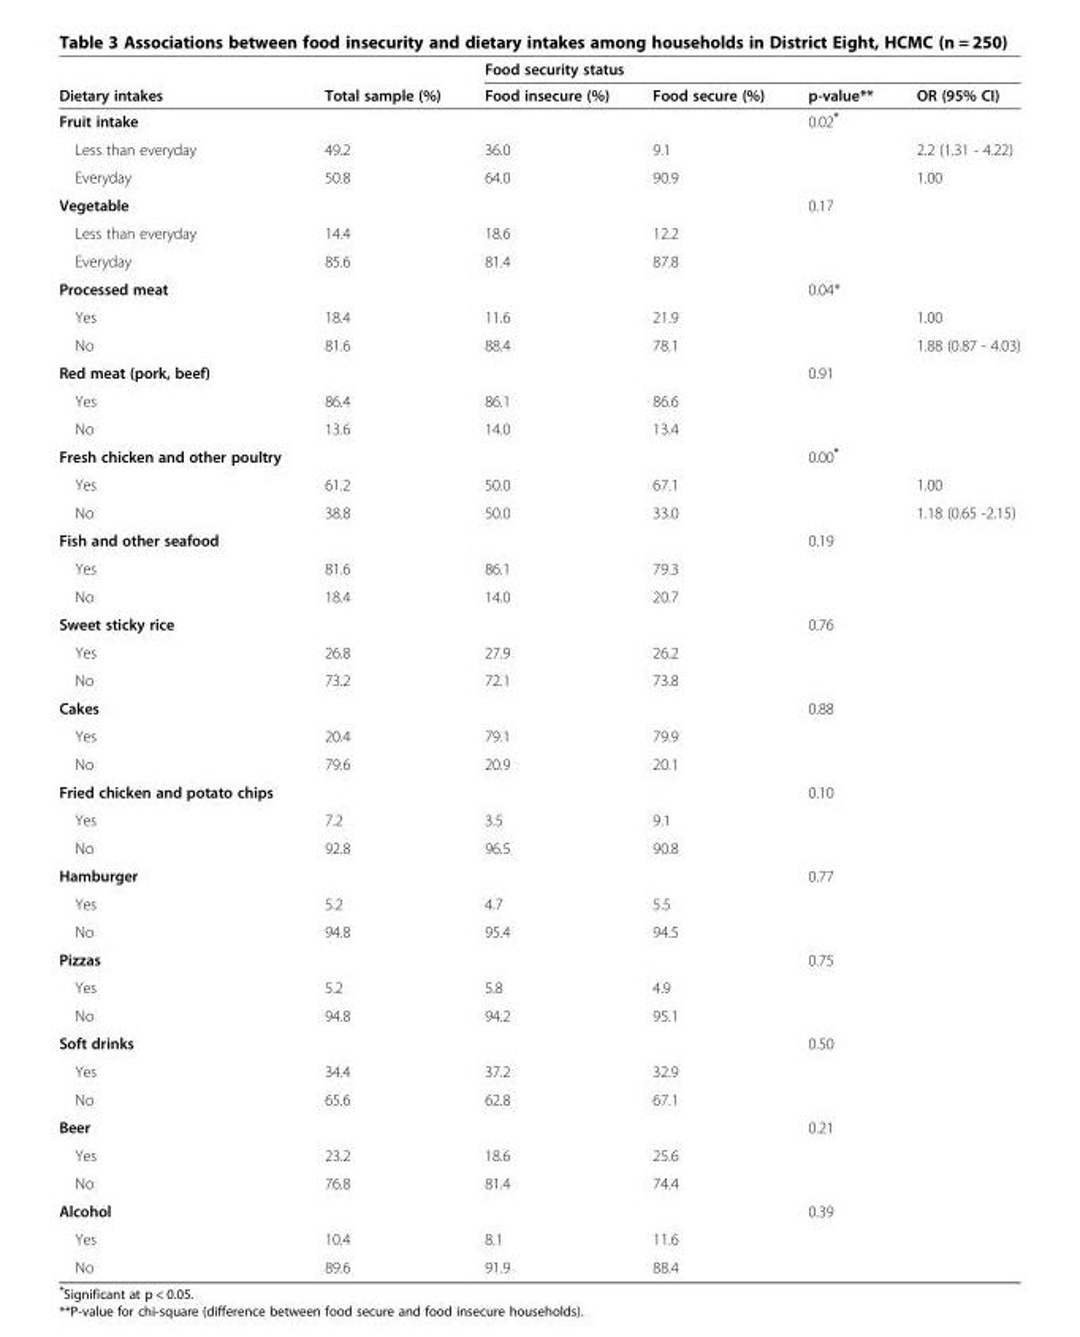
<table><thead><tr><td rowspan="2">Dietary intakes</td><td rowspan="2">Total sample (%)</td><td colspan="4">Food security status</td></tr><tr><td>Food insecure (%)</td><td>Food secure (%)</td><td>p-value**</td><td>OR (95% CI)</td></tr></thead><tbody><tr><td>Fruit intake</td><td></td><td></td><td></td><td>0.02*</td><td></td></tr><tr><td>Less than everyday</td><td>49.2</td><td>36.0</td><td>9.1</td><td></td><td>2.2 (1.31 - 4.22)</td></tr><tr><td>Everyday</td><td>50.8</td><td>64.0</td><td>90.9</td><td></td><td>1.00</td></tr><tr><td>Vegetable</td><td></td><td></td><td></td><td>0.17</td><td></td></tr><tr><td>Less than everyday</td><td>14.4</td><td>18.6</td><td>12.2</td><td></td><td></td></tr><tr><td>Everyday</td><td>85.6</td><td>81.4</td><td>87.8</td><td></td><td></td></tr><tr><td>Processed meat</td><td></td><td></td><td></td><td>0.04*</td><td></td></tr><tr><td>Yes</td><td>18.4</td><td>11.6</td><td>21.9</td><td></td><td>1.00</td></tr><tr><td>No</td><td>81.6</td><td>88.4</td><td>78.1</td><td></td><td>1.88 (0.87 - 4.03)</td></tr><tr><td>Red meat (pork, beef)</td><td></td><td></td><td></td><td>0.91</td><td></td></tr><tr><td>Yes</td><td>86.4</td><td>86.1</td><td>86.6</td><td></td><td></td></tr><tr><td>No</td><td>13.6</td><td>14.0</td><td>13.4</td><td></td><td></td></tr><tr><td>Fresh chicken and other poultry</td><td></td><td></td><td></td><td>0.00*</td><td></td></tr><tr><td>Yes</td><td>61.2</td><td>50.0</td><td>67.1</td><td></td><td>1.00</td></tr><tr><td>No</td><td>38.8</td><td>50.0</td><td>33.0</td><td></td><td>1.18 (0.65 -2.15)</td></tr><tr><td>Fish and other seafood</td><td></td><td></td><td></td><td>0.19</td><td></td></tr><tr><td>Yes</td><td>81.6</td><td>86.1</td><td>79.3</td><td></td><td></td></tr><tr><td>No</td><td>18.4</td><td>14.0</td><td>20.7</td><td></td><td></td></tr><tr><td>Sweet sticky rice</td><td></td><td></td><td></td><td>0.76</td><td></td></tr><tr><td>Yes</td><td>26.8</td><td>27.9</td><td>26.2</td><td></td><td></td></tr><tr><td>No</td><td>73.2</td><td>72.1</td><td>73.8</td><td></td><td></td></tr><tr><td>Cakes</td><td></td><td></td><td></td><td>0.88</td><td></td></tr><tr><td>Yes</td><td>20.4</td><td>79.1</td><td>79.9</td><td></td><td></td></tr><tr><td>No</td><td>79.6</td><td>20.9</td><td>20.1</td><td></td><td></td></tr><tr><td>Fried chicken and potato chips</td><td></td><td></td><td></td><td>0.10</td><td></td></tr><tr><td>Yes</td><td>7.2</td><td>3.5</td><td>9.1</td><td></td><td></td></tr><tr><td>No</td><td>92.8</td><td>96.5</td><td>90.8</td><td></td><td></td></tr><tr><td>Hamburger</td><td></td><td></td><td></td><td>0.77</td><td></td></tr><tr><td>Yes</td><td>5.2</td><td>4.7</td><td>5.5</td><td></td><td></td></tr><tr><td>No</td><td>94.8</td><td>95.4</td><td>94.5</td><td></td><td></td></tr><tr><td>Pizzas</td><td></td><td></td><td></td><td>0.75</td><td></td></tr><tr><td>Yes</td><td>5.2</td><td>5.8</td><td>4.9</td><td></td><td></td></tr><tr><td>No</td><td>94.8</td><td>94.2</td><td>95.1</td><td></td><td></td></tr><tr><td>Soft drinks</td><td></td><td></td><td></td><td>0.50</td><td></td></tr><tr><td>Yes</td><td>34.4</td><td>37.2</td><td>32.9</td><td></td><td></td></tr><tr><td>No</td><td>65.6</td><td>62.8</td><td>67.1</td><td></td><td></td></tr><tr><td>Beer</td><td></td><td></td><td></td><td>0.21</td><td></td></tr><tr><td>Yes</td><td>23.2</td><td>18.6</td><td>25.6</td><td></td><td></td></tr><tr><td>No</td><td>76.8</td><td>81.4</td><td>74.4</td><td></td><td></td></tr><tr><td>Alcohol</td><td></td><td></td><td></td><td>0.39</td><td></td></tr><tr><td>Yes</td><td>10.4</td><td>8.1</td><td>11.6</td><td></td><td></td></tr><tr><td>No</td><td>89.6</td><td>91.9</td><td>88.4</td><td></td><td></td></tr></tbody></table>